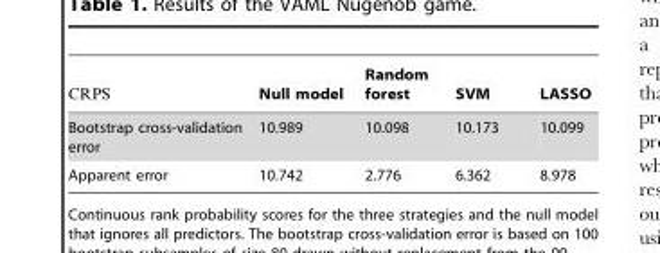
<table><thead><tr><td>CRPS</td><td>Null model</td><td>Random forest</td><td>SVM</td><td>LASSO</td></tr></thead><tbody><tr><td>Bootstrap cross-validation error</td><td>10.989</td><td>10.098</td><td>10.173</td><td>10.099</td></tr><tr><td>Apparent error</td><td>10.742</td><td>2.776</td><td>6.362</td><td>8.978</td></tr></tbody></table>